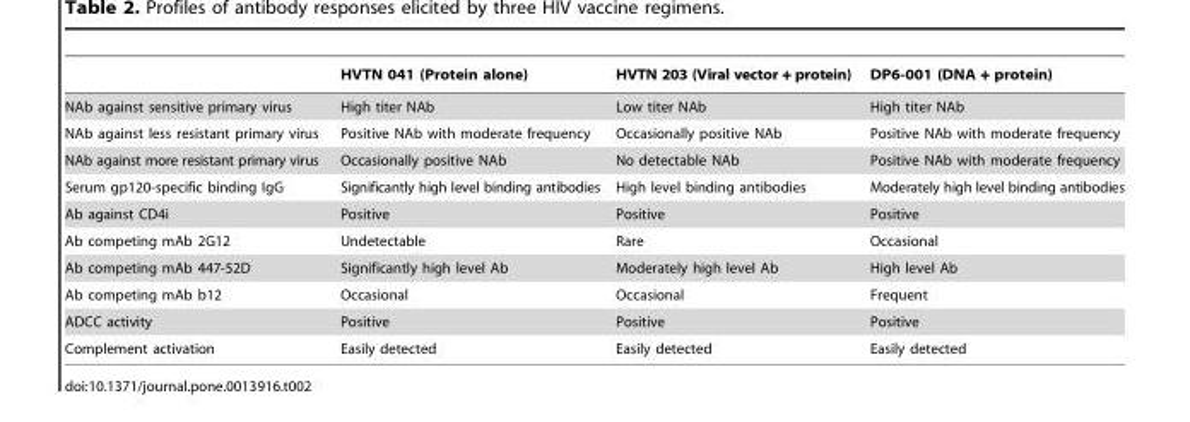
<table><thead><tr><td></td><td>HVTN 041 (Protein alone)</td><td>HVTN 203 (Viral vector + protein)</td><td>DP6-001 (DNA + protein)</td></tr></thead><tbody><tr><td>NAb against sensitive primary virus</td><td>High titer NAb</td><td>Low titer NAb</td><td>High titer NAb</td></tr><tr><td>NAb against less resistant primary virus</td><td>Positive NAb with moderate frequency</td><td>Occasionally positive NAb</td><td>Positive NAb with moderate frequency</td></tr><tr><td>NAb against more resistant primary virus</td><td>Occasionally positive NAb</td><td>No detectable NAb</td><td>Positive NAb with moderate frequency</td></tr><tr><td>Serum gp120-specific binding IgG</td><td>Significantly high level binding antibodies</td><td>High level binding antibodies</td><td>Moderately high level binding antibodies</td></tr><tr><td>Ab against CD4i</td><td>Positive</td><td>Positive</td><td>Positive</td></tr><tr><td>Ab competing mAb 2G12</td><td>Undetectable</td><td>Rare</td><td>Occasional</td></tr><tr><td>Ab competing mAb 447-52D</td><td>Significantly high level Ab</td><td>Moderately high level Ab</td><td>High level Ab</td></tr><tr><td>Ab competing mAb b12</td><td>Occasional</td><td>Occasional</td><td>Frequent</td></tr><tr><td>ADCC activity</td><td>Positive</td><td>Positive</td><td>Positive</td></tr><tr><td>Complement activation</td><td>Easily detected</td><td>Easily detected</td><td>Easily detected</td></tr></tbody></table>